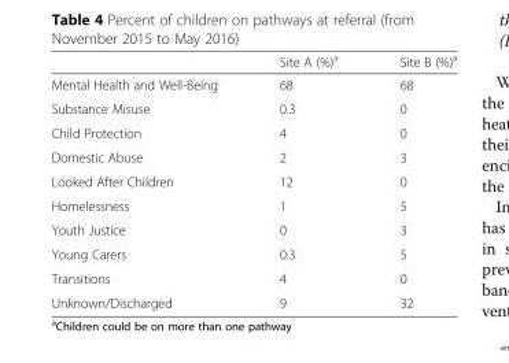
<table><thead><tr><td></td><td>Site A (%)<sup>a</sup></td><td>Site B (%)<sup>a</sup></td></tr></thead><tbody><tr><td>Mental Health and Well-Being</td><td>68</td><td>68</td></tr><tr><td>Substance Misuse</td><td>0.3</td><td>0</td></tr><tr><td>Child Protection</td><td>4</td><td>0</td></tr><tr><td>Domestic Abuse</td><td>2</td><td>3</td></tr><tr><td>Looked After Children</td><td>12</td><td>0</td></tr><tr><td>Homelessness</td><td>1</td><td>5</td></tr><tr><td>Youth Justice</td><td>0</td><td>3</td></tr><tr><td>Young Carers</td><td>0.3</td><td>5</td></tr><tr><td>Transitions</td><td>4</td><td>0</td></tr><tr><td>Unknown/Discharged</td><td>9</td><td>32</td></tr></tbody></table>